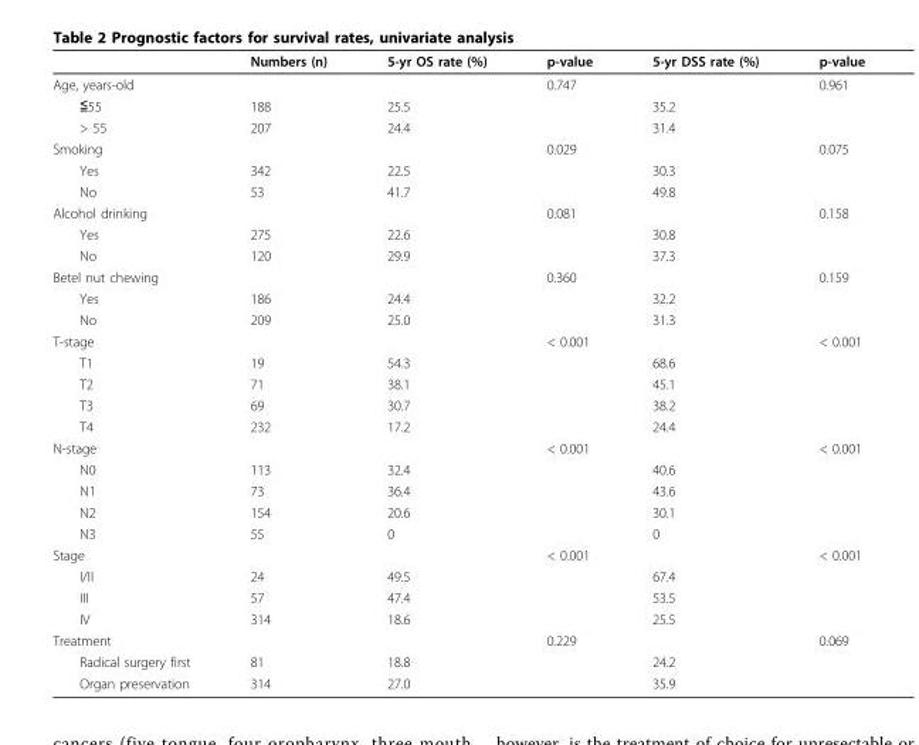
<table><thead><tr><td></td><td>Numbers (n)</td><td>5-yr OS rate (%)</td><td>p-value</td><td>5-yr DSS rate (%)</td><td>p-value</td></tr></thead><tbody><tr><td>Age, years-old</td><td></td><td></td><td>0.747</td><td></td><td>0.961</td></tr><tr><td>≦55</td><td>188</td><td>25.5</td><td></td><td>35.2</td><td></td></tr><tr><td>&gt; 55</td><td>207</td><td>24.4</td><td></td><td>31.4</td><td></td></tr><tr><td>Smoking</td><td></td><td></td><td>0.029</td><td></td><td>0.075</td></tr><tr><td>Yes</td><td>342</td><td>22.5</td><td></td><td>30.3</td><td></td></tr><tr><td>No</td><td>53</td><td>41.7</td><td></td><td>49.8</td><td></td></tr><tr><td>Alcohol drinking</td><td></td><td></td><td>0.081</td><td></td><td>0.158</td></tr><tr><td>Yes</td><td>275</td><td>22.6</td><td></td><td>30.8</td><td></td></tr><tr><td>No</td><td>120</td><td>29.9</td><td></td><td>37.3</td><td></td></tr><tr><td>Betel nut chewing</td><td></td><td></td><td>0.360</td><td></td><td>0.159</td></tr><tr><td>Yes</td><td>186</td><td>24.4</td><td></td><td>32.2</td><td></td></tr><tr><td>No</td><td>209</td><td>25.0</td><td></td><td>31.3</td><td></td></tr><tr><td>T-stage</td><td></td><td></td><td>&lt; 0.001</td><td></td><td>&lt; 0.001</td></tr><tr><td>T1</td><td>19</td><td>54.3</td><td></td><td>68.6</td><td></td></tr><tr><td>T2</td><td>71</td><td>38.1</td><td></td><td>45.1</td><td></td></tr><tr><td>T3</td><td>69</td><td>30.7</td><td></td><td>38.2</td><td></td></tr><tr><td>T4</td><td>232</td><td>17.2</td><td></td><td>24.4</td><td></td></tr><tr><td>N-stage</td><td></td><td></td><td>&lt; 0.001</td><td></td><td>&lt; 0.001</td></tr><tr><td>N0</td><td>113</td><td>32.4</td><td></td><td>40.6</td><td></td></tr><tr><td>N1</td><td>73</td><td>36.4</td><td></td><td>43.6</td><td></td></tr><tr><td>N2</td><td>154</td><td>20.6</td><td></td><td>30.1</td><td></td></tr><tr><td>N3</td><td>55</td><td>0</td><td></td><td>0</td><td></td></tr><tr><td>Stage</td><td></td><td></td><td>&lt; 0.001</td><td></td><td>&lt; 0.001</td></tr><tr><td>I/II</td><td>24</td><td>49.5</td><td></td><td>67.4</td><td></td></tr><tr><td>III</td><td>57</td><td>47.4</td><td></td><td>53.5</td><td></td></tr><tr><td>IV</td><td>314</td><td>18.6</td><td></td><td>25.5</td><td></td></tr><tr><td>Treatment</td><td></td><td></td><td>0.229</td><td></td><td>0.069</td></tr><tr><td>Radical surgery first</td><td>81</td><td>18.8</td><td></td><td>24.2</td><td></td></tr><tr><td>Organ preservation</td><td>314</td><td>27.0</td><td></td><td>35.9</td><td></td></tr></tbody></table>